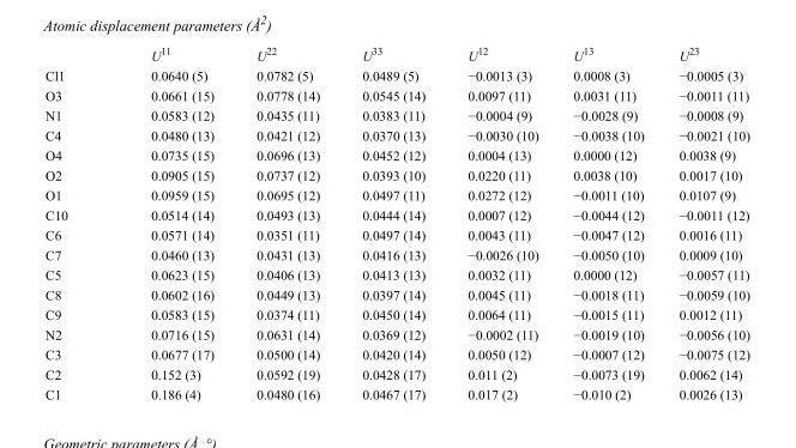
<table><thead><tr><td></td><td>U<sup>11</sup></td><td>U<sup>22</sup></td><td>U<sup>33</sup></td><td>U<sup>12</sup></td><td>U<sup>13</sup></td><td>U<sup>23</sup></td></tr></thead><tbody><tr><td>Cl1</td><td>0.0640 (5)</td><td>0.0782 (5)</td><td>0.0489 (5)</td><td>−0.0013 (3)</td><td>0.0008 (3)</td><td>−0.0005 (3)</td></tr><tr><td>O3</td><td>0.0661 (15)</td><td>0.0778 (14)</td><td>0.0545 (14)</td><td>0.0097 (11)</td><td>0.0031 (11)</td><td>−0.0011 (11)</td></tr><tr><td>N1</td><td>0.0583 (12)</td><td>0.0435 (11)</td><td>0.0383 (11)</td><td>−0.0004 (9)</td><td>−0.0028 (9)</td><td>−0.0008 (9)</td></tr><tr><td>C4</td><td>0.0480 (13)</td><td>0.0421 (12)</td><td>0.0370 (13)</td><td>−0.0030 (10)</td><td>−0.0038 (10)</td><td>−0.0021 (10)</td></tr><tr><td>O4</td><td>0.0735 (15)</td><td>0.0696 (13)</td><td>0.0452 (12)</td><td>0.0004 (13)</td><td>0.0000 (12)</td><td>0.0038 (9)</td></tr><tr><td>O2</td><td>0.0905 (15)</td><td>0.0737 (12)</td><td>0.0393 (10)</td><td>0.0220 (11)</td><td>0.0038 (10)</td><td>0.0017 (10)</td></tr><tr><td>O1</td><td>0.0959 (15)</td><td>0.0695 (12)</td><td>0.0497 (11)</td><td>0.0272 (12)</td><td>−0.0011 (10)</td><td>0.0107 (9)</td></tr><tr><td>C10</td><td>0.0514 (14)</td><td>0.0493 (13)</td><td>0.0444 (14)</td><td>0.0007 (12)</td><td>−0.0044 (12)</td><td>−0.0011 (12)</td></tr><tr><td>C6</td><td>0.0571 (14)</td><td>0.0351 (11)</td><td>0.0497 (14)</td><td>0.0043 (11)</td><td>−0.0047 (12)</td><td>0.0016 (11)</td></tr><tr><td>C7</td><td>0.0460 (13)</td><td>0.0431 (13)</td><td>0.0416 (13)</td><td>−0.0026 (10)</td><td>−0.0050 (10)</td><td>0.0009 (10)</td></tr><tr><td>C5</td><td>0.0623 (15)</td><td>0.0406 (13)</td><td>0.0413 (13)</td><td>0.0032 (11)</td><td>0.0000 (12)</td><td>−0.0057 (11)</td></tr><tr><td>C8</td><td>0.0602 (16)</td><td>0.0449 (13)</td><td>0.0397 (14)</td><td>0.0045 (11)</td><td>−0.0018 (11)</td><td>−0.0059 (10)</td></tr><tr><td>C9</td><td>0.0583 (15)</td><td>0.0374 (11)</td><td>0.0450 (14)</td><td>0.0064 (11)</td><td>−0.0015 (11)</td><td>0.0012 (11)</td></tr><tr><td>N2</td><td>0.0716 (15)</td><td>0.0631 (14)</td><td>0.0369 (12)</td><td>−0.0002 (11)</td><td>−0.0019 (10)</td><td>−0.0056 (10)</td></tr><tr><td>C3</td><td>0.0677 (17)</td><td>0.0500 (14)</td><td>0.0420 (14)</td><td>0.0050 (12)</td><td>−0.0007 (12)</td><td>−0.0075 (12)</td></tr><tr><td>C2</td><td>0.152 (3)</td><td>0.0592 (19)</td><td>0.0428 (17)</td><td>0.011 (2)</td><td>−0.0073 (19)</td><td>0.0062 (14)</td></tr><tr><td>C1</td><td>0.186 (4)</td><td>0.0480 (16)</td><td>0.0467 (17)</td><td>0.017 (2)</td><td>−0.010 (2)</td><td>0.0026 (13)</td></tr></tbody></table>